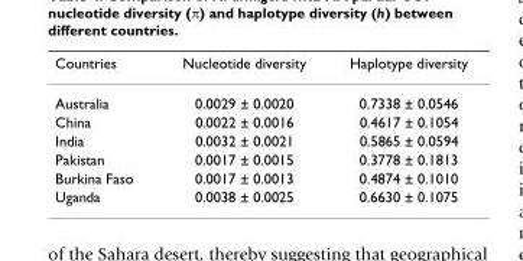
<table><thead><tr><td>Countries</td><td>Nucleotide diversity</td><td>Haplotype diversity</td></tr></thead><tbody><tr><td>Australia</td><td>0.0029 ± 0.0020</td><td>0.7338 ± 0.0546</td></tr><tr><td>China</td><td>0.0022 ± 0.0016</td><td>0.4617 ± 0.1054</td></tr><tr><td>India</td><td>0.0032 ± 0.0021</td><td>0.5865 ± 0.0594</td></tr><tr><td>Pakistan</td><td>0.0017 ± 0.0015</td><td>0.3778 ± 0.1813</td></tr><tr><td>Burkina Faso</td><td>0.0017 ± 0.0013</td><td>0.4874 ± 0.1010</td></tr><tr><td>Uganda</td><td>0.0038 ± 0.0025</td><td>0.6630 ± 0.1075</td></tr></tbody></table>